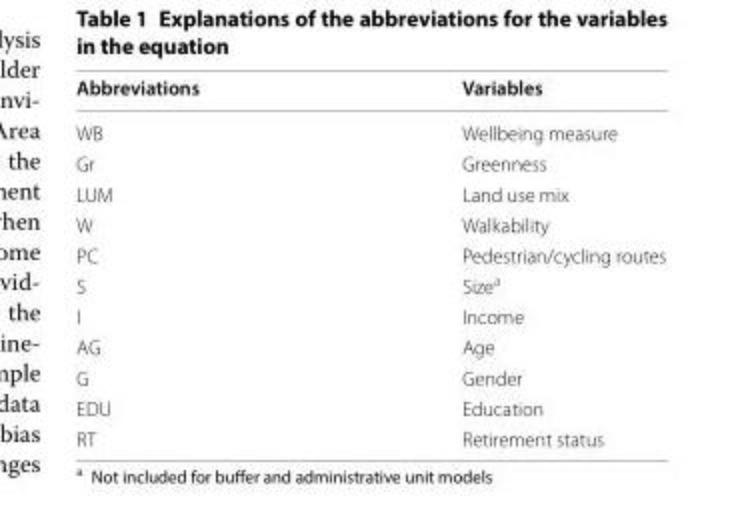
<table><thead><tr><td>Abbreviations</td><td>Variables</td></tr></thead><tbody><tr><td>WB</td><td>Wellbeing measure</td></tr><tr><td>Gr</td><td>Greenness</td></tr><tr><td>LUM</td><td>Land use mix</td></tr><tr><td>W</td><td>Walkability</td></tr><tr><td>PC</td><td>Pedestrian/cycling routes</td></tr><tr><td>S</td><td>Size<sup>a</sup></td></tr><tr><td>I</td><td>Income</td></tr><tr><td>AG</td><td>Age</td></tr><tr><td>G</td><td>Gender</td></tr><tr><td>EDU</td><td>Education</td></tr><tr><td>RT</td><td>Retirement status</td></tr></tbody></table>